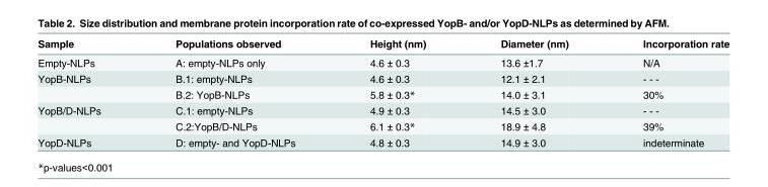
<table><thead><tr><td>Sample</td><td>Populations observed</td><td>Height (nm)</td><td>Diameter (nm)</td><td>Incorporation rate</td></tr></thead><tbody><tr><td>Empty-NLPs</td><td>A: empty-NLPs only</td><td>4.6 ± 0.3</td><td>13.6 ±1.7</td><td>N/A</td></tr><tr><td rowspan="2">YopB-NLPs</td><td>B.1: empty-NLPs</td><td>4.6 ± 0.3</td><td>12.1 ± 2.1</td><td>- - -</td></tr><tr><td>B.2: YopB-NLPs</td><td>5.8 ± 0.3*</td><td>14.0 ± 3.1</td><td>30%</td></tr><tr><td rowspan="2">YopB/D-NLPs</td><td>C.1: empty-NLPs</td><td>4.9 ± 0.3</td><td>14.5 ± 3.0</td><td>- - -</td></tr><tr><td>C.2:YopB/D-NLPs</td><td>6.1 ± 0.3*</td><td>18.9 ± 4.8</td><td>39%</td></tr><tr><td>YopD-NLPs</td><td>D: empty- and YopD-NLPs</td><td>4.8 ± 0.3</td><td>14.9 ± 3.0</td><td>indeterminate</td></tr></tbody></table>